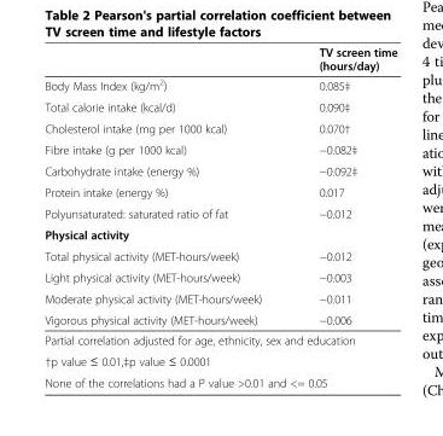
<table><thead><tr><td></td><td>TV screen time (hours/day)</td></tr></thead><tbody><tr><td>Body Mass Index (kg/m<sup>2</sup>)</td><td>0.085‡</td></tr><tr><td>Total calorie intake (kcal/d)</td><td>0.090‡</td></tr><tr><td>Cholesterol intake (mg per 1000 kcal)</td><td>0.070†</td></tr><tr><td>Fibre intake (g per 1000 kcal)</td><td>−0.082‡</td></tr><tr><td>Carbohydrate intake (energy %)</td><td>−0.092‡</td></tr><tr><td>Protein intake (energy %)</td><td>0.017</td></tr><tr><td>Polyunsaturated: saturated ratio of fat</td><td>−0.012</td></tr><tr><td colspan="2">Physical activity</td></tr><tr><td>Total physical activity (MET-hours/week)</td><td>−0.012</td></tr><tr><td>Light physical activity (MET-hours/week)</td><td>−0.003</td></tr><tr><td>Moderate physical activity (MET-hours/week)</td><td>−0.011</td></tr><tr><td>Vigorous physical activity (MET-hours/week)</td><td>−0.006</td></tr><tr><td colspan="2">Partial correlation adjusted for age, ethnicity, sex and education</td></tr><tr><td colspan="2">†p value ≤ 0.01,‡p value ≤ 0.0001</td></tr><tr><td colspan="2">None of the correlations had a P value &gt;0.01 and &lt;= 0.05</td></tr></tbody></table>